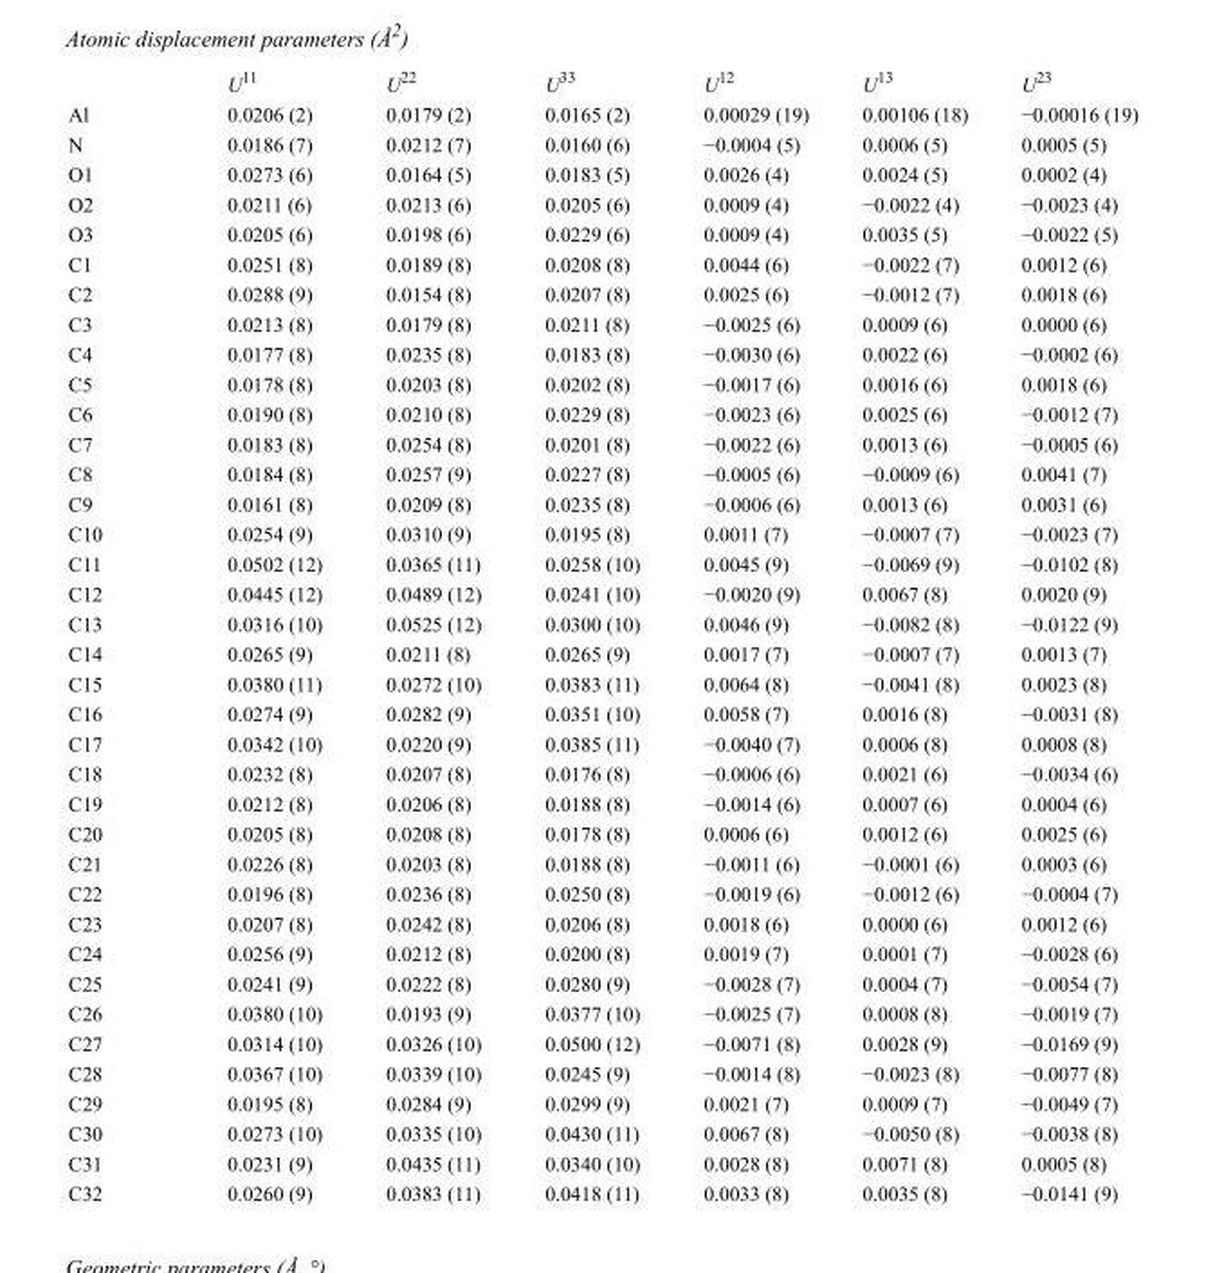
<table><thead><tr><td></td><td>U<sup>11</sup></td><td>U<sup>22</sup></td><td>U<sup>33</sup></td><td>U<sup>12</sup></td><td>U<sup>13</sup></td><td>U<sup>23</sup></td></tr></thead><tbody><tr><td>Al</td><td>0.0206 (2)</td><td>0.0179 (2)</td><td>0.0165 (2)</td><td>0.00029 (19)</td><td>0.00106 (18)</td><td>−0.00016 (19)</td></tr><tr><td>N</td><td>0.0186 (7)</td><td>0.0212 (7)</td><td>0.0160 (6)</td><td>−0.0004 (5)</td><td>0.0006 (5)</td><td>0.0005 (5)</td></tr><tr><td>O1</td><td>0.0273 (6)</td><td>0.0164 (5)</td><td>0.0183 (5)</td><td>0.0026 (4)</td><td>0.0024 (5)</td><td>0.0002 (4)</td></tr><tr><td>O2</td><td>0.0211 (6)</td><td>0.0213 (6)</td><td>0.0205 (6)</td><td>0.0009 (4)</td><td>−0.0022 (4)</td><td>−0.0023 (4)</td></tr><tr><td>O3</td><td>0.0205 (6)</td><td>0.0198 (6)</td><td>0.0229 (6)</td><td>0.0009 (4)</td><td>0.0035 (5)</td><td>−0.0022 (5)</td></tr><tr><td>C1</td><td>0.0251 (8)</td><td>0.0189 (8)</td><td>0.0208 (8)</td><td>0.0044 (6)</td><td>−0.0022 (7)</td><td>0.0012 (6)</td></tr><tr><td>C2</td><td>0.0288 (9)</td><td>0.0154 (8)</td><td>0.0207 (8)</td><td>0.0025 (6)</td><td>−0.0012 (7)</td><td>0.0018 (6)</td></tr><tr><td>C3</td><td>0.0213 (8)</td><td>0.0179 (8)</td><td>0.0211 (8)</td><td>−0.0025 (6)</td><td>0.0009 (6)</td><td>0.0000 (6)</td></tr><tr><td>C4</td><td>0.0177 (8)</td><td>0.0235 (8)</td><td>0.0183 (8)</td><td>−0.0030 (6)</td><td>0.0022 (6)</td><td>−0.0002 (6)</td></tr><tr><td>C5</td><td>0.0178 (8)</td><td>0.0203 (8)</td><td>0.0202 (8)</td><td>−0.0017 (6)</td><td>0.0016 (6)</td><td>0.0018 (6)</td></tr><tr><td>C6</td><td>0.0190 (8)</td><td>0.0210 (8)</td><td>0.0229 (8)</td><td>−0.0023 (6)</td><td>0.0025 (6)</td><td>−0.0012 (7)</td></tr><tr><td>C7</td><td>0.0183 (8)</td><td>0.0254 (8)</td><td>0.0201 (8)</td><td>−0.0022 (6)</td><td>0.0013 (6)</td><td>−0.0005 (6)</td></tr><tr><td>C8</td><td>0.0184 (8)</td><td>0.0257 (9)</td><td>0.0227 (8)</td><td>−0.0005 (6)</td><td>−0.0009 (6)</td><td>0.0041 (7)</td></tr><tr><td>C9</td><td>0.0161 (8)</td><td>0.0209 (8)</td><td>0.0235 (8)</td><td>−0.0006 (6)</td><td>0.0013 (6)</td><td>0.0031 (6)</td></tr><tr><td>C10</td><td>0.0254 (9)</td><td>0.0310 (9)</td><td>0.0195 (8)</td><td>0.0011 (7)</td><td>−0.0007 (7)</td><td>−0.0023 (7)</td></tr><tr><td>C11</td><td>0.0502 (12)</td><td>0.0365 (11)</td><td>0.0258 (10)</td><td>0.0045 (9)</td><td>−0.0069 (9)</td><td>−0.0102 (8)</td></tr><tr><td>C12</td><td>0.0445 (12)</td><td>0.0489 (12)</td><td>0.0241 (10)</td><td>−0.0020 (9)</td><td>0.0067 (8)</td><td>0.0020 (9)</td></tr><tr><td>C13</td><td>0.0316 (10)</td><td>0.0525 (12)</td><td>0.0300 (10)</td><td>0.0046 (9)</td><td>−0.0082 (8)</td><td>−0.0122 (9)</td></tr><tr><td>C14</td><td>0.0265 (9)</td><td>0.0211 (8)</td><td>0.0265 (9)</td><td>0.0017 (7)</td><td>−0.0007 (7)</td><td>0.0013 (7)</td></tr><tr><td>C15</td><td>0.0380 (11)</td><td>0.0272 (10)</td><td>0.0383 (11)</td><td>0.0064 (8)</td><td>−0.0041 (8)</td><td>0.0023 (8)</td></tr><tr><td>C16</td><td>0.0274 (9)</td><td>0.0282 (9)</td><td>0.0351 (10)</td><td>0.0058 (7)</td><td>0.0016 (8)</td><td>−0.0031 (8)</td></tr><tr><td>C17</td><td>0.0342 (10)</td><td>0.0220 (9)</td><td>0.0385 (11)</td><td>−0.0040 (7)</td><td>0.0006 (8)</td><td>0.0008 (8)</td></tr><tr><td>C18</td><td>0.0232 (8)</td><td>0.0207 (8)</td><td>0.0176 (8)</td><td>−0.0006 (6)</td><td>0.0021 (6)</td><td>−0.0034 (6)</td></tr><tr><td>C19</td><td>0.0212 (8)</td><td>0.0206 (8)</td><td>0.0188 (8)</td><td>−0.0014 (6)</td><td>0.0007 (6)</td><td>0.0004 (6)</td></tr><tr><td>C20</td><td>0.0205 (8)</td><td>0.0208 (8)</td><td>0.0178 (8)</td><td>0.0006 (6)</td><td>0.0012 (6)</td><td>0.0025 (6)</td></tr><tr><td>C21</td><td>0.0226 (8)</td><td>0.0203 (8)</td><td>0.0188 (8)</td><td>−0.0011 (6)</td><td>−0.0001 (6)</td><td>0.0003 (6)</td></tr><tr><td>C22</td><td>0.0196 (8)</td><td>0.0236 (8)</td><td>0.0250 (8)</td><td>−0.0019 (6)</td><td>−0.0012 (6)</td><td>−0.0004 (7)</td></tr><tr><td>C23</td><td>0.0207 (8)</td><td>0.0242 (8)</td><td>0.0206 (8)</td><td>0.0018 (6)</td><td>0.0000 (6)</td><td>0.0012 (6)</td></tr><tr><td>C24</td><td>0.0256 (9)</td><td>0.0212 (8)</td><td>0.0200 (8)</td><td>0.0019 (7)</td><td>0.0001 (7)</td><td>−0.0028 (6)</td></tr><tr><td>C25</td><td>0.0241 (9)</td><td>0.0222 (8)</td><td>0.0280 (9)</td><td>−0.0028 (7)</td><td>0.0004 (7)</td><td>−0.0054 (7)</td></tr><tr><td>C26</td><td>0.0380 (10)</td><td>0.0193 (9)</td><td>0.0377 (10)</td><td>−0.0025 (7)</td><td>0.0008 (8)</td><td>−0.0019 (7)</td></tr><tr><td>C27</td><td>0.0314 (10)</td><td>0.0326 (10)</td><td>0.0500 (12)</td><td>−0.0071 (8)</td><td>0.0028 (9)</td><td>−0.0169 (9)</td></tr><tr><td>C28</td><td>0.0367 (10)</td><td>0.0339 (10)</td><td>0.0245 (9)</td><td>−0.0014 (8)</td><td>−0.0023 (8)</td><td>−0.0077 (8)</td></tr><tr><td>C29</td><td>0.0195 (8)</td><td>0.0284 (9)</td><td>0.0299 (9)</td><td>0.0021 (7)</td><td>0.0009 (7)</td><td>−0.0049 (7)</td></tr><tr><td>C30</td><td>0.0273 (10)</td><td>0.0335 (10)</td><td>0.0430 (11)</td><td>0.0067 (8)</td><td>−0.0050 (8)</td><td>−0.0038 (8)</td></tr><tr><td>C31</td><td>0.0231 (9)</td><td>0.0435 (11)</td><td>0.0340 (10)</td><td>0.0028 (8)</td><td>0.0071 (8)</td><td>0.0005 (8)</td></tr><tr><td>C32</td><td>0.0260 (9)</td><td>0.0383 (11)</td><td>0.0418 (11)</td><td>0.0033 (8)</td><td>0.0035 (8)</td><td>−0.0141 (9)</td></tr></tbody></table>